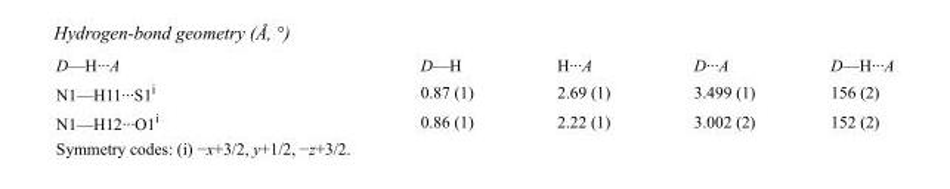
<table><tbody><tr><td>D—H···A</td><td>D—H</td><td>H···A</td><td>D···A</td><td>D—H···A</td></tr><tr><td>N1—H11···S1<sup>i</sup></td><td>0.87 (1)</td><td>2.69 (1)</td><td>3.499 (1)</td><td>156 (2)</td></tr><tr><td>N1—H12···O1<sup>i</sup></td><td>0.86 (1)</td><td>2.22 (1)</td><td>3.002 (2)</td><td>152 (2)</td></tr></tbody></table>